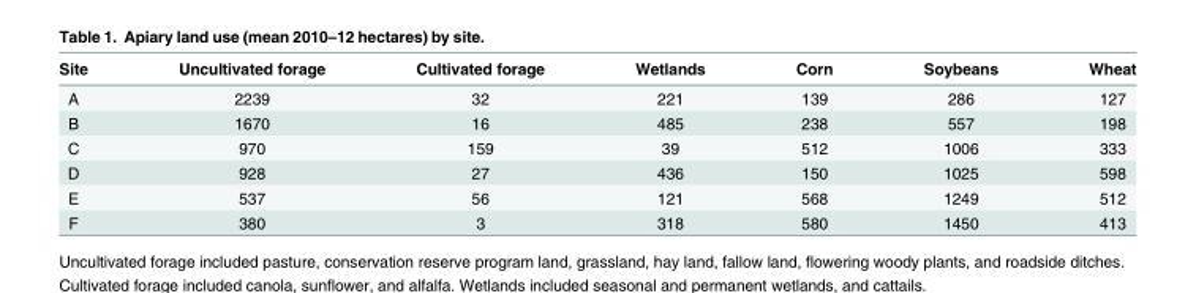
<table><thead><tr><td>Site</td><td>Uncultivated forage</td><td>Cultivated forage</td><td>Wetlands</td><td>Corn</td><td>Soybeans</td><td>Wheat</td></tr></thead><tbody><tr><td>A</td><td>2239</td><td>32</td><td>221</td><td>139</td><td>286</td><td>127</td></tr><tr><td>B</td><td>1670</td><td>16</td><td>485</td><td>238</td><td>557</td><td>198</td></tr><tr><td>C</td><td>970</td><td>159</td><td>39</td><td>512</td><td>1006</td><td>333</td></tr><tr><td>D</td><td>928</td><td>27</td><td>436</td><td>150</td><td>1025</td><td>598</td></tr><tr><td>E</td><td>537</td><td>56</td><td>121</td><td>568</td><td>1249</td><td>512</td></tr><tr><td>F</td><td>380</td><td>3</td><td>318</td><td>580</td><td>1450</td><td>413</td></tr></tbody></table>